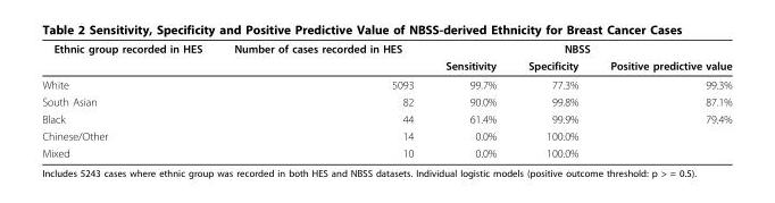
<table><thead><tr><td rowspan="2">Ethnic group recorded in HES</td><td rowspan="2">Number of cases recorded in HES</td><td colspan="3">NBSS</td></tr><tr><td>Sensitivity</td><td>Specificity</td><td>Positive predictive value</td></tr></thead><tbody><tr><td>White</td><td>5093</td><td>99.7%</td><td>77.3%</td><td>99.3%</td></tr><tr><td>South Asian</td><td>82</td><td>90.0%</td><td>99.8%</td><td>87.1%</td></tr><tr><td>Black</td><td>44</td><td>61.4%</td><td>99.9%</td><td>79.4%</td></tr><tr><td>Chinese/Other</td><td>14</td><td>0.0%</td><td>100.0%</td><td></td></tr><tr><td>Mixed</td><td>10</td><td>0.0%</td><td>100.0%</td><td></td></tr></tbody></table>